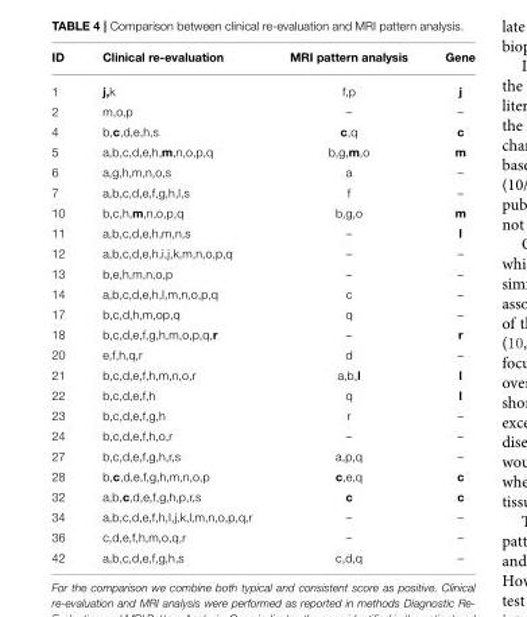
<table><thead><tr><td>ID</td><td>Clinical re-evaluation</td><td>MRI pattern analysis</td><td>Gene</td></tr></thead><tbody><tr><td>1</td><td>j,k</td><td>f,p</td><td>j</td></tr><tr><td>2</td><td>m,o,p</td><td>–</td><td>–</td></tr><tr><td>4</td><td>b,c,d,e,h,s</td><td>c,q</td><td>c</td></tr><tr><td>5</td><td>a,b,c,d,e,h,m,n,o,p,q</td><td>b,g,m,o</td><td>m</td></tr><tr><td>6</td><td>a,g,h,m,n,o,s</td><td>a</td><td>–</td></tr><tr><td>7</td><td>a,b,c,d,e,f,g,h,l,s</td><td>f</td><td>–</td></tr><tr><td>10</td><td>b,c,h,m,n,o,p,q</td><td>b,g,o</td><td>m</td></tr><tr><td>11</td><td>a,b,c,d,e,h,m,n,s</td><td>–</td><td>l</td></tr><tr><td>12</td><td>a,b,c,d,e,h,i,j,k,m,n,o,p,q</td><td>–</td><td>–</td></tr><tr><td>13</td><td>b,e,h,m,n,o,p</td><td>–</td><td>–</td></tr><tr><td>14</td><td>a,b,c,d,e,h,I,m,n,o,p,q</td><td>c</td><td>–</td></tr><tr><td>17</td><td>b,c,d,h,m,op,q</td><td>q</td><td>–</td></tr><tr><td>18</td><td>b,c,d,e,f,g,h,m,o,p,q,r</td><td>–</td><td>r</td></tr><tr><td>20</td><td>e,f,h,q,r</td><td>d</td><td>–</td></tr><tr><td>21</td><td>b,c,d,e,f,h,m,n,o,r</td><td>a,b,l</td><td>l</td></tr><tr><td>22</td><td>b,c,d,e,f,h</td><td>q</td><td>l</td></tr><tr><td>23</td><td>b,c,d,e,f,g,h</td><td>r</td><td>–</td></tr><tr><td>24</td><td>b,c,d,e,f,h,o,r</td><td>–</td><td>–</td></tr><tr><td>27</td><td>b,c,d,e,f,g,h,r,s</td><td>a,p,q</td><td>–</td></tr><tr><td>28</td><td>b,c,d,e,f,g,h,m,n,o,p</td><td>c,e,q</td><td>c</td></tr><tr><td>32</td><td>a,b,c,d,e,f,g,h,p,r,s</td><td>c</td><td>c</td></tr><tr><td>34</td><td>a,b,c,d,e,f,h,I,j,k,l,m,n,o,p,q,r</td><td>–</td><td>–</td></tr><tr><td>36</td><td>c,d,e,f,h,m,o,q,r</td><td>–</td><td>–</td></tr><tr><td>42</td><td>a,b,c,d,e,f,g,h,s</td><td>c,d,q</td><td>–</td></tr></tbody></table>